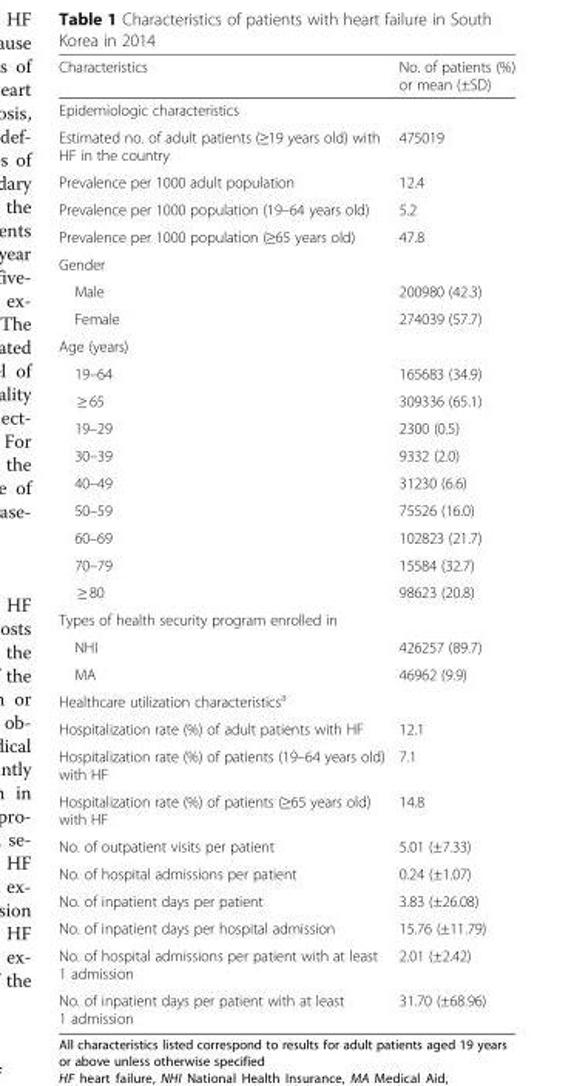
<table><thead><tr><td>Characteristics</td><td>No. of patients (%) or mean (±SD)</td></tr></thead><tbody><tr><td colspan="2">Epidemiologic characteristics</td></tr><tr><td>Estimated no. of adult patients (≥19 years old) with HF in the country</td><td>475019</td></tr><tr><td>Prevalence per 1000 adult population</td><td>12.4</td></tr><tr><td>Prevalence per 1000 population (19–64 years old)</td><td>5.2</td></tr><tr><td>Prevalence per 1000 population (≥65 years old)</td><td>47.8</td></tr><tr><td colspan="2">Gender</td></tr><tr><td>Male</td><td>200980 (42.3)</td></tr><tr><td>Female</td><td>274039 (57.7)</td></tr><tr><td colspan="2">Age (years)</td></tr><tr><td>19–64</td><td>165683 (34.9)</td></tr><tr><td>≥ 65</td><td>309336 (65.1)</td></tr><tr><td>19–29</td><td>2300 (0.5)</td></tr><tr><td>30–39</td><td>9332 (2.0)</td></tr><tr><td>40–49</td><td>31230 (6.6)</td></tr><tr><td>50–59</td><td>75526 (16.0)</td></tr><tr><td>60–69</td><td>102823 (21.7)</td></tr><tr><td>70–79</td><td>15584 (32.7)</td></tr><tr><td>≥ 80</td><td>98623 (20.8)</td></tr><tr><td colspan="2">Types of health security program enrolled in</td></tr><tr><td>NHI</td><td>426257 (89.7)</td></tr><tr><td>MA</td><td>46962 (9.9)</td></tr><tr><td colspan="2">Healthcare utilization characteristics<sup>a</sup></td></tr><tr><td>Hospitalization rate (%) of adult patients with HF</td><td>12.1</td></tr><tr><td>Hospitalization rate (%) of patients (19–64 years old) with HF</td><td>7.1</td></tr><tr><td>Hospitalization rate (%) of patients (≥65 years old) with HF</td><td>14.8</td></tr><tr><td>No. of outpatient visits per patient</td><td>5.01 (±7.33)</td></tr><tr><td>No. of hospital admissions per patient</td><td>0.24 (±1.07)</td></tr><tr><td>No. of inpatient days per patient</td><td>3.83 (±26.08)</td></tr><tr><td>No. of inpatient days per hospital admission</td><td>15.76 (±11.79)</td></tr><tr><td>No. of hospital admissions per patient with at least 1 admission</td><td>2.01 (±2.42)</td></tr><tr><td>No. of inpatient days per patient with at least 1 admission</td><td>31.70 (±68.96)</td></tr></tbody></table>